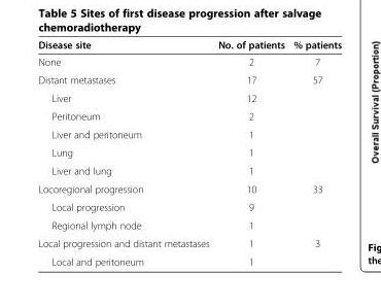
<table><thead><tr><td>Disease site</td><td>No. of patients</td><td>% patients</td></tr></thead><tbody><tr><td>None</td><td>2</td><td>7</td></tr><tr><td>Distant metastases</td><td>17</td><td>57</td></tr><tr><td>Liver</td><td>12</td><td></td></tr><tr><td>Peritoneum</td><td>2</td><td></td></tr><tr><td>Liver and peritoneum</td><td>1</td><td></td></tr><tr><td>Lung</td><td>1</td><td></td></tr><tr><td>Liver and lung</td><td>1</td><td></td></tr><tr><td>Locoregional progression</td><td>10</td><td>33</td></tr><tr><td>Local progression</td><td>9</td><td></td></tr><tr><td>Regional lymph node</td><td>1</td><td></td></tr><tr><td>Local progression and distant metastases</td><td>1</td><td>3</td></tr><tr><td>Local and peritoneum</td><td>1</td><td></td></tr></tbody></table>